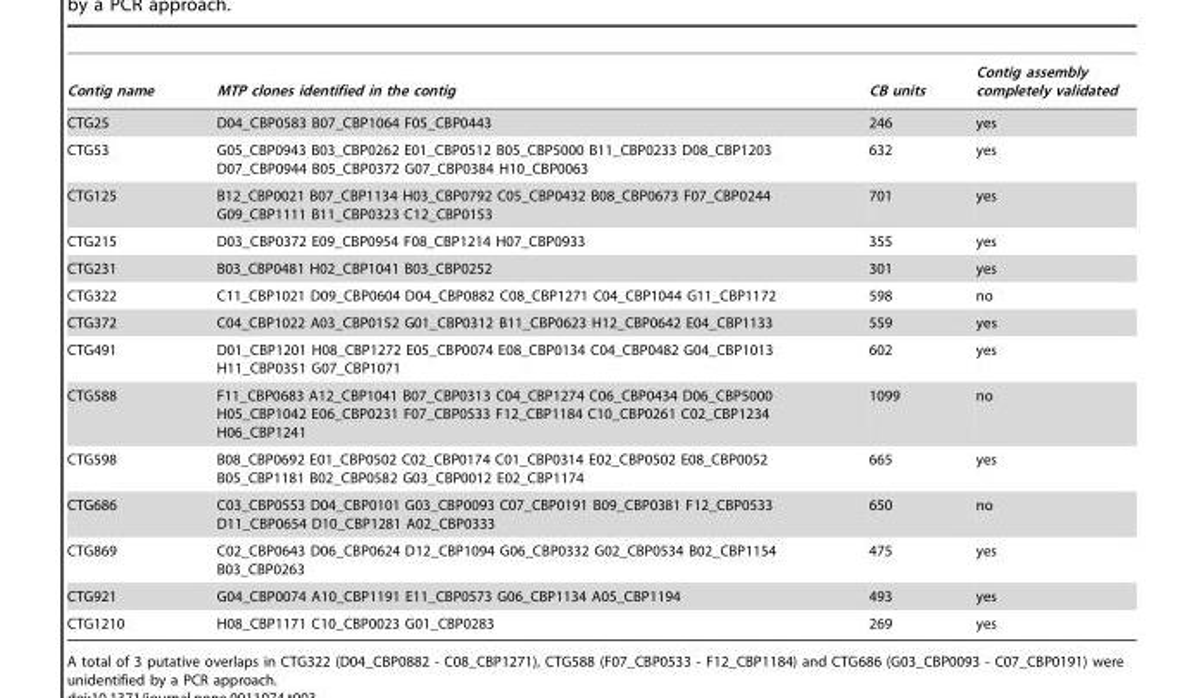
<table><thead><tr><td>Contig name</td><td>MTP clones identified in the contig</td><td>CB units</td><td>Contig assembly completely validated</td></tr></thead><tbody><tr><td>CTG25</td><td>D04_CBP0583 B07_CBP1064 F05_CBP0443</td><td>246</td><td>yes</td></tr><tr><td>CTG53</td><td>G05_CBP0943 B03_CBP0262 E01_CBP0512 B05_CBP5000 B11_CBP0233 D08_CBP1203 D07_CBP0944 B05_CBP0372 G07_CBP0384 H10_CBP0063</td><td>632</td><td>yes</td></tr><tr><td>CTG125</td><td>B12_CBP0021 B07_CBP1134 H03_CBP0792 C05_CBP0432 B08_CBP0673 F07_CBP0244 G09_CBP1111 B11_CBP0323 C12_CBP0153</td><td>701</td><td>yes</td></tr><tr><td>CTG215</td><td>D03_CBP0372 E09_CBP0954 F08_CBP1214 H07_CBP0933</td><td>355</td><td>yes</td></tr><tr><td>CTG231</td><td>B03_CBP0481 H02_CBP1041 B03_CBP0252</td><td>301</td><td>yes</td></tr><tr><td>CTG322</td><td>C11_CBP1021 D09_CBP0604 D04_CBP0882 C08_CBP1271 C04_CBP1044 G11_CBP1172</td><td>598</td><td>no</td></tr><tr><td>CTG372</td><td>C04_CBP1022 A03_CBP0152 G01_CBP0312 B11_CBP0623 H12_CBP0642 E04_CBP1133</td><td>559</td><td>yes</td></tr><tr><td>CTG491</td><td>D01_CBP1201 H08_CBP1272 E05_CBP0074 E08_CBP0134 C04_CBP0482 G04_CBP1013 H11_CBP0351 G07_CBP1071</td><td>602</td><td>yes</td></tr><tr><td>CTG588</td><td>F11_CBP0683 A12_CBP1041 B07_CBP0313 C04_CBP1274 C06_CBP0434 D06_CBP5000 H05_CBP1042 E06_CBP0231 F07_CBP0533 F12_CBP1184 C10_CBP0261 C02_CBP1234 H06_CBP1241</td><td>1099</td><td>no</td></tr><tr><td>CTG598</td><td>B08_CBP0692 E01_CBP0502 C02_CBP0174 C01_CBP0314 E02_CBP0502 E08_CBP0052 B05_CBP1181 B02_CBP0582 G03_CBP0012 E02_CBP1174</td><td>665</td><td>yes</td></tr><tr><td>CTG686</td><td>C03_CBP0553 D04_CBP0101 G03_CBP0093 C07_CBP0191 B09_CBP0381 F12_CBP0533 D11_CBP0654 D10_CBP1281 A02_CBP0333</td><td>650</td><td>no</td></tr><tr><td>CTG869</td><td>C02_CBP0643 D06_CBP0624 D12_CBP1094 G06_CBP0332 G02_CBP0534 B02_CBP1154 B03_CBP0263</td><td>475</td><td>yes</td></tr><tr><td>CTG921</td><td>G04_CBP0074 A10_CBP1191 E11_CBP0573 G06_CBP1134 A05_CBP1194</td><td>493</td><td>yes</td></tr><tr><td>CTG1210</td><td>H08_CBP1171 C10_CBP0023 G01_CBP0283</td><td>269</td><td>yes</td></tr></tbody></table>